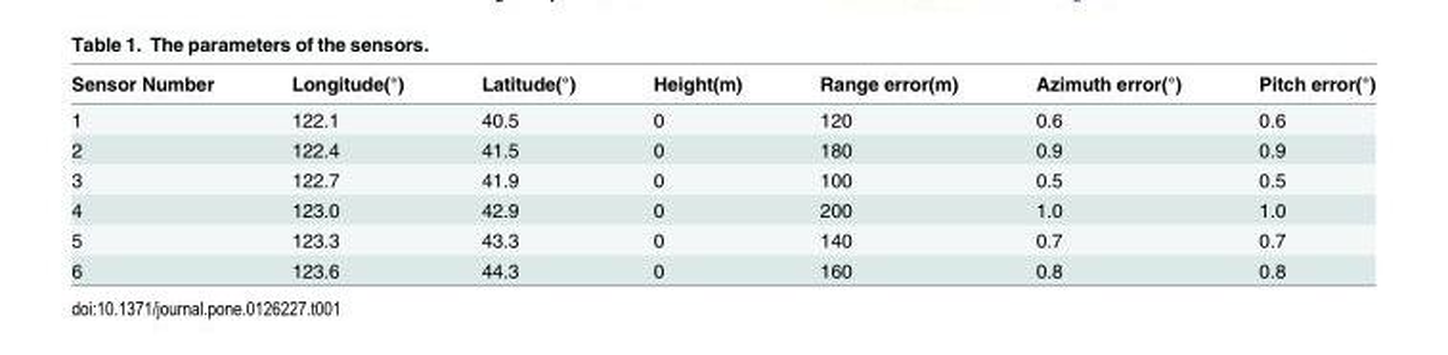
<table><thead><tr><td>Sensor Number</td><td>Longitude(°)</td><td>Latitude(°)</td><td>Height(m)</td><td>Range error(m)</td><td>Azimuth error(°)</td><td>Pitch error(°)</td></tr></thead><tbody><tr><td>1</td><td>122.1</td><td>40.5</td><td>0</td><td>120</td><td>0.6</td><td>0.6</td></tr><tr><td>2</td><td>122.4</td><td>41.5</td><td>0</td><td>180</td><td>0.9</td><td>0.9</td></tr><tr><td>3</td><td>122.7</td><td>41.9</td><td>0</td><td>100</td><td>0.5</td><td>0.5</td></tr><tr><td>4</td><td>123.0</td><td>42.9</td><td>0</td><td>200</td><td>1.0</td><td>1.0</td></tr><tr><td>5</td><td>123.3</td><td>43.3</td><td>0</td><td>140</td><td>0.7</td><td>0.7</td></tr><tr><td>6</td><td>123.6</td><td>44.3</td><td>0</td><td>160</td><td>0.8</td><td>0.8</td></tr></tbody></table>